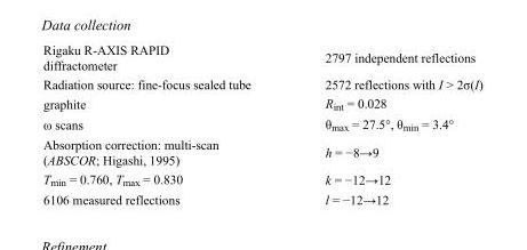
<table><tbody><tr><td>Rigaku R-AXIS RAPID diffractometer</td><td>2797 independent reflections</td></tr><tr><td>Radiation source: fine-focus sealed tube</td><td>2572 reflections with I &gt; 2σ(I)</td></tr><tr><td>graphite</td><td>R<sub>int</sub> = 0.028</td></tr><tr><td>ω scans</td><td>θ<sub>max</sub> = 27.5°, θ<sub>min</sub> = 3.4°</td></tr><tr><td>Absorption correction: multi-scan (ABSCOR; Higashi, 1995)</td><td>h = −8→9</td></tr><tr><td>T<sub>min</sub> = 0.760, T<sub>max</sub> = 0.830</td><td>k = −12→12</td></tr><tr><td>6106 measured reflections</td><td>l = −12→12</td></tr></tbody></table>